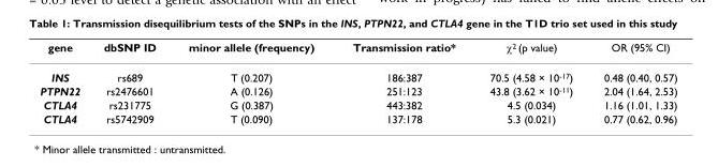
<table><thead><tr><td>gene</td><td>dbSNP ID</td><td>minor allele (frequency)</td><td>Transmission ratio*</td><td>χ<sup>2</sup> (p value)</td><td>OR (95% CI)</td></tr></thead><tbody><tr><td>INS</td><td>rs689</td><td>T (0.207)</td><td>186:387</td><td>70.5 (4.58 × 10<sup>-17</sup>)</td><td>0.48 (0.40, 0.57)</td></tr><tr><td>PTPN22</td><td>rs2476601</td><td>A (0.126)</td><td>251:123</td><td>43.8 (3.62 × 10<sup>-11</sup>)</td><td>2.04 (1.64, 2.53)</td></tr><tr><td>CTLA4</td><td>rs231775</td><td>G (0.387)</td><td>443:382</td><td>4.5 (0.034)</td><td>1.16 (1.01, 1.33)</td></tr><tr><td>CTLA4</td><td>rs5742909</td><td>T (0.090)</td><td>137:178</td><td>5.3 (0.021)</td><td>0.77 (0.62, 0.96)</td></tr></tbody></table>